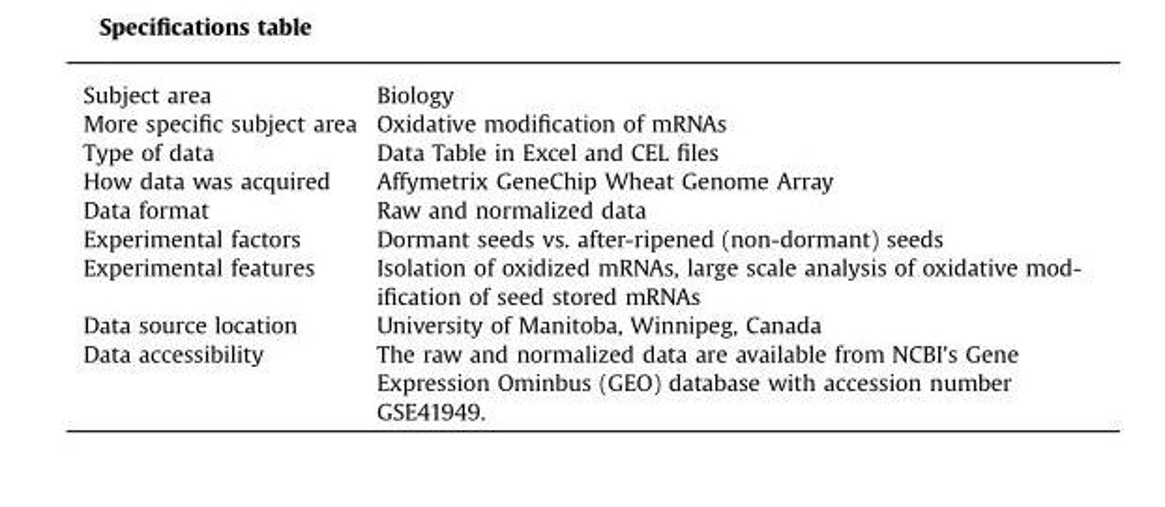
<table><thead><tr><td>Subject area</td><td>Biology</td></tr></thead><tbody><tr><td>More specific subject area</td><td>Oxidative modification of mRNAs</td></tr><tr><td>Type of data</td><td>Data Table in Excel and CEL files</td></tr><tr><td>How data was acquired</td><td>Affymetrix GeneChip Wheat Genome Array</td></tr><tr><td>Data format</td><td>Raw and normalized data</td></tr><tr><td>Experimental factors</td><td>Dormant seeds vs. after-ripened (non-dormant) seeds</td></tr><tr><td>Experimental features</td><td>Isolation of oxidized mRNAs, large scale analysis of oxidative mod- ification of seed stored mRNAs</td></tr><tr><td>Data source location</td><td>University of Manitoba, Winnipeg, Canada</td></tr><tr><td>Data accessibility</td><td>The raw and normalized data are available from NCBI&#x27;s Gene Expression Ominbus (GEO) database with accession number GSE41949.</td></tr></tbody></table>